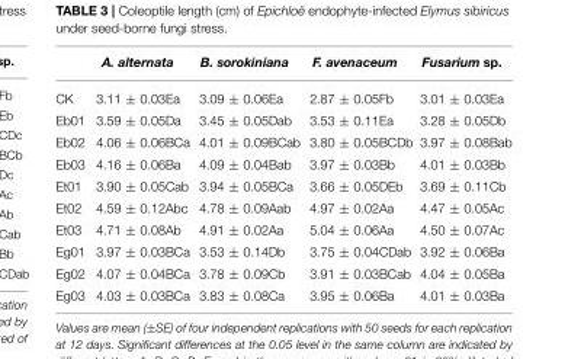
<table><thead><tr><td></td><td>A. alternata</td><td>B. sorokiniana</td><td>F. avenaceum</td><td>Fusarium sp.</td></tr></thead><tbody><tr><td>CK</td><td>3.11 ± 0.03Ea</td><td>3.09 ± 0.06Ea</td><td>2.87 ± 0.05Fb</td><td>3.01 ± 0.03Ea</td></tr><tr><td>Eb01</td><td>3.59 ± 0.05Da</td><td>3.45 ± 0.05Dab</td><td>3.53 ± 0.11Ea</td><td>3.28 ± 0.05Db</td></tr><tr><td>Eb02</td><td>4.06 ± 0.06BCa</td><td>4.01 ± 0.09BCab</td><td>3.80 ± 0.05BCDb</td><td>3.97 ± 0.08Bab</td></tr><tr><td>Eb03</td><td>4.16 ± 0.06Ba</td><td>4.09 ± 0.04Bab</td><td>3.97 ± 0.03Bb</td><td>4.01 ± 0.03Bb</td></tr><tr><td>Et01</td><td>3.90 ± 0.05Cab</td><td>3.94 ± 0.05BCa</td><td>3.66 ± 0.05DEb</td><td>3.69 ± 0.11Cb</td></tr><tr><td>Et02</td><td>4.59 ± 0.12Abc</td><td>4.78 ± 0.09Aab</td><td>4.97 ± 0.02Aa</td><td>4.47 ± 0.05Ac</td></tr><tr><td>Et03</td><td>4.71 ± 0.08Ab</td><td>4.91 ± 0.02Aa</td><td>5.04 ± 0.06Aa</td><td>4.50 ± 0.07Ac</td></tr><tr><td>Eg01</td><td>3.97 ± 0.03BCa</td><td>3.53 ± 0.14Db</td><td>3.75 ± 0.04CDab</td><td>3.92 ± 0.06Ba</td></tr><tr><td>Eg02</td><td>4.07 ± 0.04BCa</td><td>3.78 ± 0.09Cb</td><td>3.91 ± 0.03BCab</td><td>4.04 ± 0.05Ba</td></tr><tr><td>Eg03</td><td>4.03 ± 0.03BCa</td><td>3.83 ± 0.08Ca</td><td>3.95 ± 0.06Ba</td><td>4.01 ± 0.03Ba</td></tr></tbody></table>